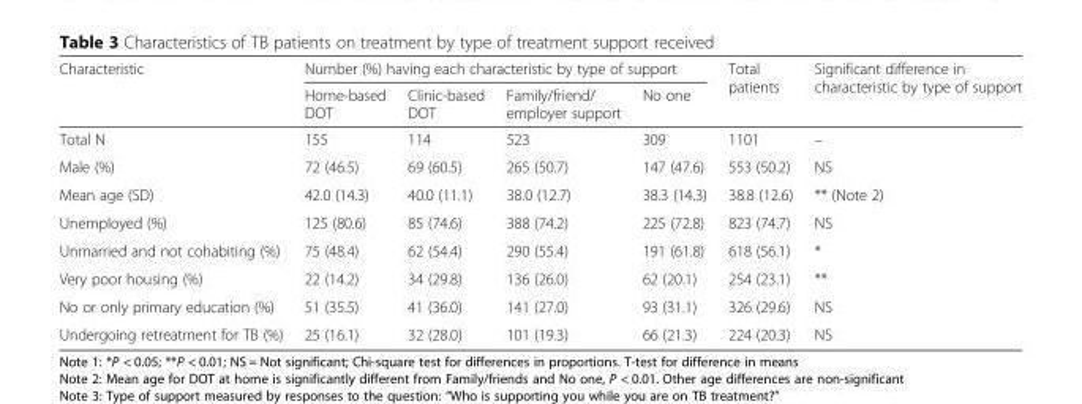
<table><thead><tr><td rowspan="2">Characteristic</td><td colspan="4">Number (%) having each characteristic by type of support</td><td rowspan="2">Total patients</td><td rowspan="2">Significant difference in characteristic by type of support</td></tr><tr><td>Home-based DOT</td><td>Clinic-based DOT</td><td>Family/friend/ employer support</td><td>No one</td></tr></thead><tbody><tr><td>Total N</td><td>155</td><td>114</td><td>523</td><td>309</td><td>1101</td><td>–</td></tr><tr><td>Male (%)</td><td>72 (46.5)</td><td>69 (60.5)</td><td>265 (50.7)</td><td>147 (47.6)</td><td>553 (50.2)</td><td>NS</td></tr><tr><td>Mean age (SD)</td><td>42.0 (14.3)</td><td>40.0 (11.1)</td><td>38.0 (12.7)</td><td>38.3 (14.3)</td><td>38.8 (12.6)</td><td>** (Note 2)</td></tr><tr><td>Unemployed (%)</td><td>125 (80.6)</td><td>85 (74.6)</td><td>388 (74.2)</td><td>225 (72.8)</td><td>823 (74.7)</td><td>NS</td></tr><tr><td>Unmarried and not cohabiting (%)</td><td>75 (48.4)</td><td>62 (54.4)</td><td>290 (55.4)</td><td>191 (61.8)</td><td>618 (56.1)</td><td>*</td></tr><tr><td>Very poor housing (%)</td><td>22 (14.2)</td><td>34 (29.8)</td><td>136 (26.0)</td><td>62 (20.1)</td><td>254 (23.1)</td><td>**</td></tr><tr><td>No or only primary education (%)</td><td>51 (35.5)</td><td>41 (36.0)</td><td>141 (27.0)</td><td>93 (31.1)</td><td>326 (29.6)</td><td>NS</td></tr><tr><td>Undergoing retreatment for TB (%)</td><td>25 (16.1)</td><td>32 (28.0)</td><td>101 (19.3)</td><td>66 (21.3)</td><td>224 (20.3)</td><td>NS</td></tr></tbody></table>